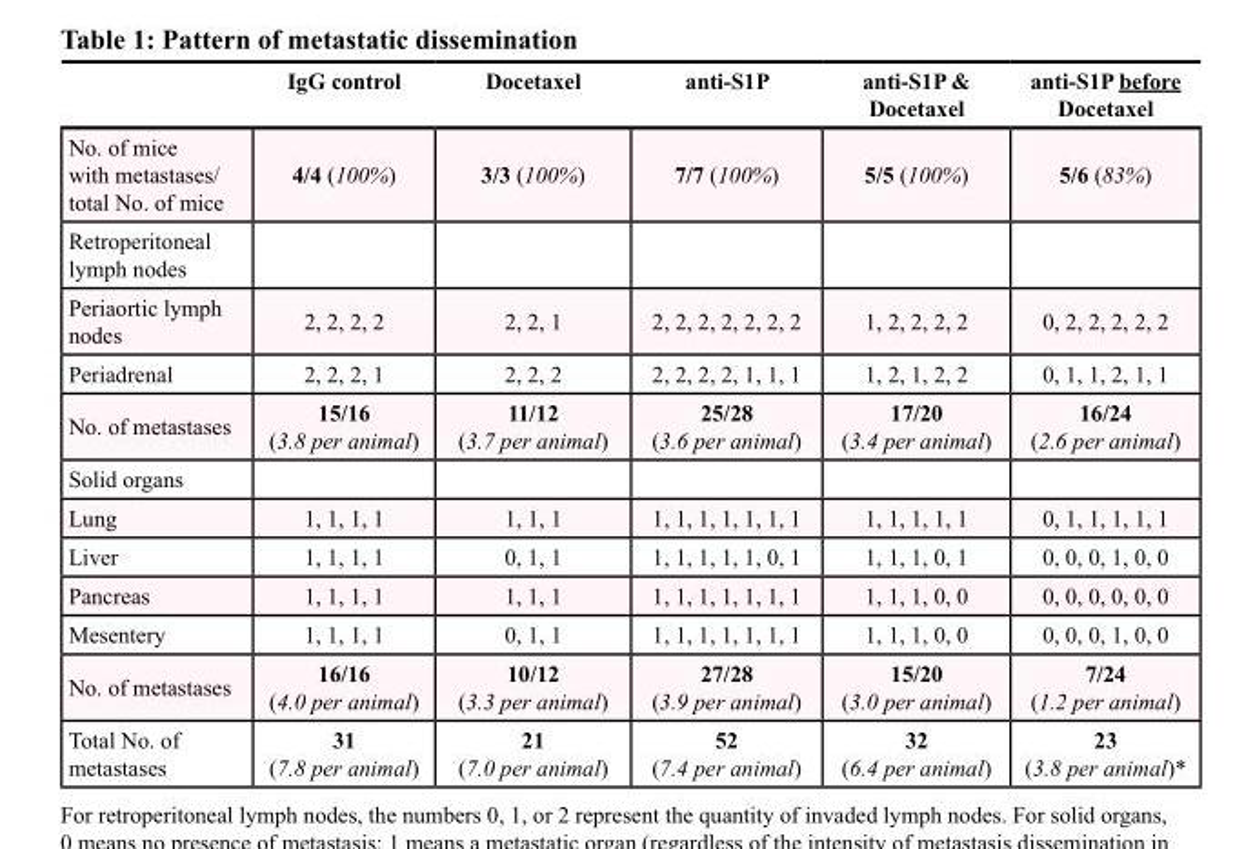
<table><thead><tr><td></td><td>IgG control</td><td>Docetaxel</td><td>anti-S1P</td><td>anti-S1P &amp; Docetaxel</td><td>anti-S1P before Docetaxel</td></tr></thead><tbody><tr><td>No. of mice with metastases/ total No. of mice</td><td>4/4 (100%)</td><td>3/3 (100%)</td><td>7/7 (100%)</td><td>5/5 (100%)</td><td>5/6 (83%)</td></tr><tr><td colspan="6">Retroperitoneal lymph nodes</td></tr><tr><td>Periaortic lymph nodes</td><td>2, 2, 2, 2</td><td>2, 2, 1</td><td>2, 2, 2, 2, 2, 2, 2</td><td>1, 2, 2, 2, 2</td><td>0, 2, 2, 2, 2, 2</td></tr><tr><td>Periadrenal</td><td>2, 2, 2, 1</td><td>2, 2, 2</td><td>2, 2, 2, 2, 1, 1, 1</td><td>1, 2, 1, 2, 2</td><td>0, 1, 1, 2, 1, 1</td></tr><tr><td>No. of metastases</td><td>15/16 (3.8 per animal)</td><td>11/12 (3.7 per animal)</td><td>25/28 (3.6 per animal)</td><td>17/20 (3.4 per animal)</td><td>16/24 (2.6 per animal)</td></tr><tr><td colspan="6">Solid organs</td></tr><tr><td>Lung</td><td>1, 1, 1, 1</td><td>1, 1, 1</td><td>1, 1, 1, 1, 1, 1, 1</td><td>1, 1, 1, 1, 1</td><td>0, 1, 1, 1, 1, 1</td></tr><tr><td>Liver</td><td>1, 1, 1, 1</td><td>0, 1, 1</td><td>1, 1, 1, 1, 1, 0, 1</td><td>1, 1, 1, 0, 1</td><td>0, 0, 0, 1, 0, 0</td></tr><tr><td>Pancreas</td><td>1, 1, 1, 1</td><td>1, 1, 1</td><td>1, 1, 1, 1, 1, 1, 1</td><td>1, 1, 1, 0, 0</td><td>0, 0, 0, 0, 0, 0</td></tr><tr><td>Mesentery</td><td>1, 1, 1, 1</td><td>0, 1, 1</td><td>1, 1, 1, 1, 1, 1, 1</td><td>1, 1, 1, 0, 0</td><td>0, 0, 0, 1, 0, 0</td></tr><tr><td>No. of metastases</td><td>16/16 (4.0 per animal)</td><td>10/12 (3.3 per animal)</td><td>27/28 (3.9 per animal)</td><td>15/20 (3.0 per animal)</td><td>7/24 (1.2 per animal)</td></tr><tr><td>Total No. of metastases</td><td>31 (7.8 per animal)</td><td>21 (7.0 per animal)</td><td>52 (7.4 per animal)</td><td>32 (6.4 per animal)</td><td>23 (3.8 per animal)*</td></tr></tbody></table>